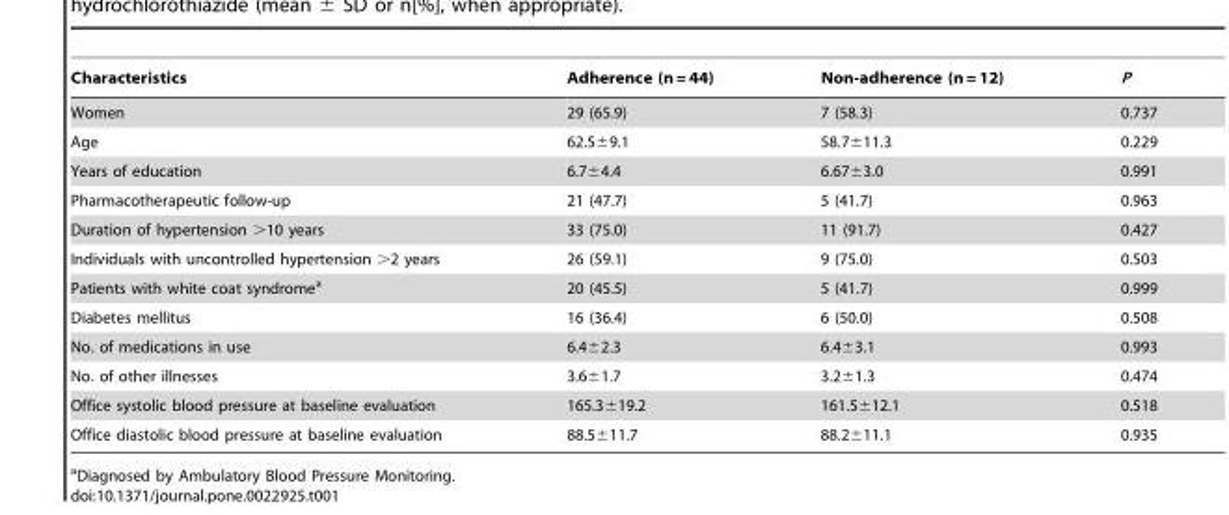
<table><thead><tr><td>Characteristics</td><td>Adherence (n = 44)</td><td>Non-adherence (n = 12)</td><td>P</td></tr></thead><tbody><tr><td>Women</td><td>29 (65.9)</td><td>7 (58.3)</td><td>0.737</td></tr><tr><td>Age</td><td>62.5±9.1</td><td>58.7±11.3</td><td>0.229</td></tr><tr><td>Years of education</td><td>6.7±4.4</td><td>6.67±3.0</td><td>0.991</td></tr><tr><td>Pharmacotherapeutic follow-up</td><td>21 (47.7)</td><td>5 (41.7)</td><td>0.963</td></tr><tr><td>Duration of hypertension &gt;10 years</td><td>33 (75.0)</td><td>11 (91.7)</td><td>0.427</td></tr><tr><td>Individuals with uncontrolled hypertension &gt;2 years</td><td>26 (59.1)</td><td>9 (75.0)</td><td>0.503</td></tr><tr><td>Patients with white coat syndrome<sup>a</sup></td><td>20 (45.5)</td><td>5 (41.7)</td><td>0.999</td></tr><tr><td>Diabetes mellitus</td><td>16 (36.4)</td><td>6 (50.0)</td><td>0.508</td></tr><tr><td>No. of medications in use</td><td>6.4±2.3</td><td>6.4±3.1</td><td>0.993</td></tr><tr><td>No. of other illnesses</td><td>3.6±1.7</td><td>3.2±1.3</td><td>0.474</td></tr><tr><td>Office systolic blood pressure at baseline evaluation</td><td>165.3±19.2</td><td>161.5±12.1</td><td>0.518</td></tr><tr><td>Office diastolic blood pressure at baseline evaluation</td><td>88.5±11.7</td><td>88.2±11.1</td><td>0.935</td></tr></tbody></table>